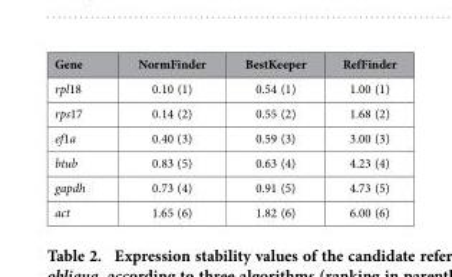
<table><thead><tr><td>Gene</td><td>NormFinder</td><td>BestKeeper</td><td>RefFinder</td></tr></thead><tbody><tr><td>rpl18</td><td>0.10 (1)</td><td>0.54 (1)</td><td>1.00 (1)</td></tr><tr><td>rps17</td><td>0.14 (2)</td><td>0.55 (2)</td><td>1.68 (2)</td></tr><tr><td>ef1a</td><td>0.40 (3)</td><td>0.59 (3)</td><td>3.00 (3)</td></tr><tr><td>btub</td><td>0.83 (5)</td><td>0.63 (4)</td><td>4.23 (4)</td></tr><tr><td>gapdh</td><td>0.73 (4)</td><td>0.91 (5)</td><td>4.73 (5)</td></tr><tr><td>act</td><td>1.65 (6)</td><td>1.82 (6)</td><td>6.00 (6)</td></tr></tbody></table>